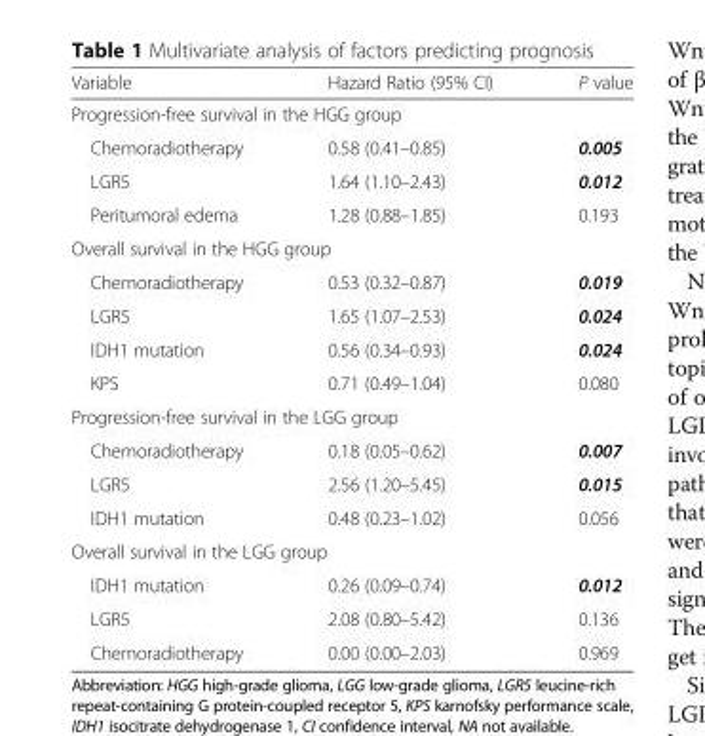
<table><thead><tr><td>Variable</td><td>Hazard Ratio (95% CI)</td><td>P value</td></tr></thead><tbody><tr><td colspan="3">Progression-free survival in the HGG group</td></tr><tr><td>Chemoradiotherapy</td><td>0.58 (0.41–0.85)</td><td>0.005</td></tr><tr><td>LGR5</td><td>1.64 (1.10–2.43)</td><td>0.012</td></tr><tr><td>Peritumoral edema</td><td>1.28 (0.88–1.85)</td><td>0.193</td></tr><tr><td colspan="3">Overall survival in the HGG group</td></tr><tr><td>Chemoradiotherapy</td><td>0.53 (0.32–0.87)</td><td>0.019</td></tr><tr><td>LGR5</td><td>1.65 (1.07–2.53)</td><td>0.024</td></tr><tr><td>IDH1 mutation</td><td>0.56 (0.34–0.93)</td><td>0.024</td></tr><tr><td>KPS</td><td>0.71 (0.49–1.04)</td><td>0.080</td></tr><tr><td colspan="3">Progression-free survival in the LGG group</td></tr><tr><td>Chemoradiotherapy</td><td>0.18 (0.05–0.62)</td><td>0.007</td></tr><tr><td>LGR5</td><td>2.56 (1.20–5.45)</td><td>0.015</td></tr><tr><td>IDH1 mutation</td><td>0.48 (0.23–1.02)</td><td>0.056</td></tr><tr><td colspan="3">Overall survival in the LGG group</td></tr><tr><td>IDH1 mutation</td><td>0.26 (0.09–0.74)</td><td>0.012</td></tr><tr><td>LGR5</td><td>2.08 (0.80–5.42)</td><td>0.136</td></tr><tr><td>Chemoradiotherapy</td><td>0.00 (0.00–2.03)</td><td>0.969</td></tr></tbody></table>